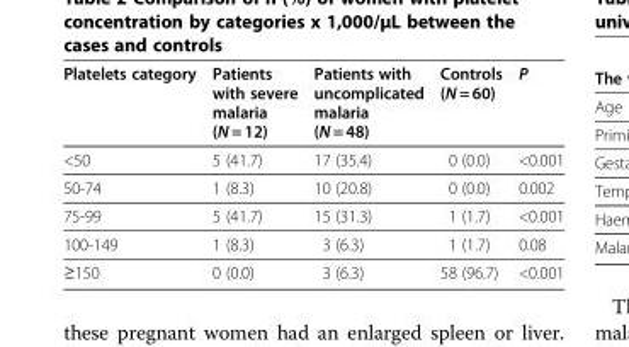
<table><thead><tr><td>Platelets category</td><td>Patients with severe malaria (N = 12)</td><td>Patients with uncomplicated malaria (N = 48)</td><td>Controls (N = 60)</td><td>P</td></tr></thead><tbody><tr><td>&lt;50</td><td>5 (41.7)</td><td>17 (35.4)</td><td>0 (0.0)</td><td>&lt;0.001</td></tr><tr><td>50-74</td><td>1 (8.3)</td><td>10 (20.8)</td><td>0 (0.0)</td><td>0.002</td></tr><tr><td>75-99</td><td>5 (41.7)</td><td>15 (31.3)</td><td>1 (1.7)</td><td>&lt;0.001</td></tr><tr><td>100-149</td><td>1 (8.3)</td><td>3 (6.3)</td><td>1 (1.7)</td><td>0.08</td></tr><tr><td>≥150</td><td>0 (0.0)</td><td>3 (6.3)</td><td>58 (96.7)</td><td>&lt;0.001</td></tr></tbody></table>